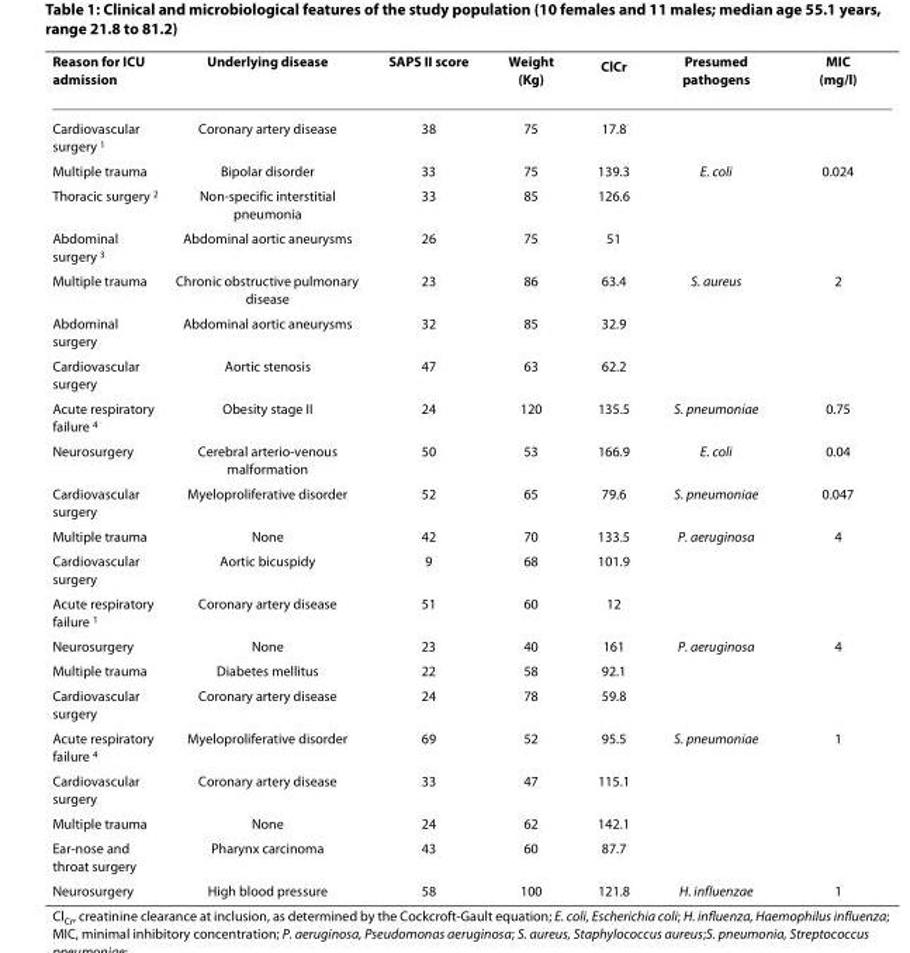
<table><thead><tr><td>Reason for ICU admission</td><td>Underlying disease</td><td>SAPS II score</td><td>Weight (Kg)</td><td>Cl<sub>Cr</sub></td><td>Presumed pathogens</td><td>MIC (mg/l)</td></tr></thead><tbody><tr><td>Cardiovascular surgery <sup>1</sup></td><td>Coronary artery disease</td><td>38</td><td>75</td><td>17.8</td><td></td><td></td></tr><tr><td>Multiple trauma</td><td>Bipolar disorder</td><td>33</td><td>75</td><td>139.3</td><td>E. coli</td><td>0.024</td></tr><tr><td>Thoracic surgery <sup>2</sup></td><td>Non-specific interstitial pneumonia</td><td>33</td><td>85</td><td>126.6</td><td></td><td></td></tr><tr><td>Abdominal surgery <sup>3</sup></td><td>Abdominal aortic aneurysms</td><td>26</td><td>75</td><td>51</td><td></td><td></td></tr><tr><td>Multiple trauma</td><td>Chronic obstructive pulmonary disease</td><td>23</td><td>86</td><td>63.4</td><td>S. aureus</td><td>2</td></tr><tr><td>Abdominal surgery</td><td>Abdominal aortic aneurysms</td><td>32</td><td>85</td><td>32.9</td><td></td><td></td></tr><tr><td>Cardiovascular surgery</td><td>Aortic stenosis</td><td>47</td><td>63</td><td>62.2</td><td></td><td></td></tr><tr><td>Acute respiratory failure <sup>4</sup></td><td>Obesity stage II</td><td>24</td><td>120</td><td>135.5</td><td>S. pneumoniae</td><td>0.75</td></tr><tr><td>Neurosurgery</td><td>Cerebral arterio-venous malformation</td><td>50</td><td>53</td><td>166.9</td><td>E. coli</td><td>0.04</td></tr><tr><td>Cardiovascular surgery</td><td>Myeloproliferative disorder</td><td>52</td><td>65</td><td>79.6</td><td>S. pneumoniae</td><td>0.047</td></tr><tr><td>Multiple trauma</td><td>None</td><td>42</td><td>70</td><td>133.5</td><td>P. aeruginosa</td><td>4</td></tr><tr><td>Cardiovascular surgery</td><td>Aortic bicuspidy</td><td>9</td><td>68</td><td>101.9</td><td></td><td></td></tr><tr><td>Acute respiratory failure <sup>1</sup></td><td>Coronary artery disease</td><td>51</td><td>60</td><td>12</td><td></td><td></td></tr><tr><td>Neurosurgery</td><td>None</td><td>23</td><td>40</td><td>161</td><td>P. aeruginosa</td><td>4</td></tr><tr><td>Multiple trauma</td><td>Diabetes mellitus</td><td>22</td><td>58</td><td>92.1</td><td></td><td></td></tr><tr><td>Cardiovascular surgery</td><td>Coronary artery disease</td><td>24</td><td>78</td><td>59.8</td><td></td><td></td></tr><tr><td>Acute respiratory failure <sup>4</sup></td><td>Myeloproliferative disorder</td><td>69</td><td>52</td><td>95.5</td><td>S. pneumoniae</td><td>1</td></tr><tr><td>Cardiovascular surgery</td><td>Coronary artery disease</td><td>33</td><td>47</td><td>115.1</td><td></td><td></td></tr><tr><td>Multiple trauma</td><td>None</td><td>24</td><td>62</td><td>142.1</td><td></td><td></td></tr><tr><td>Ear-nose and throat surgery</td><td>Pharynx carcinoma</td><td>43</td><td>60</td><td>87.7</td><td></td><td></td></tr><tr><td>Neurosurgery</td><td>High blood pressure</td><td>58</td><td>100</td><td>121.8</td><td>H. influenzae</td><td>1</td></tr></tbody></table>